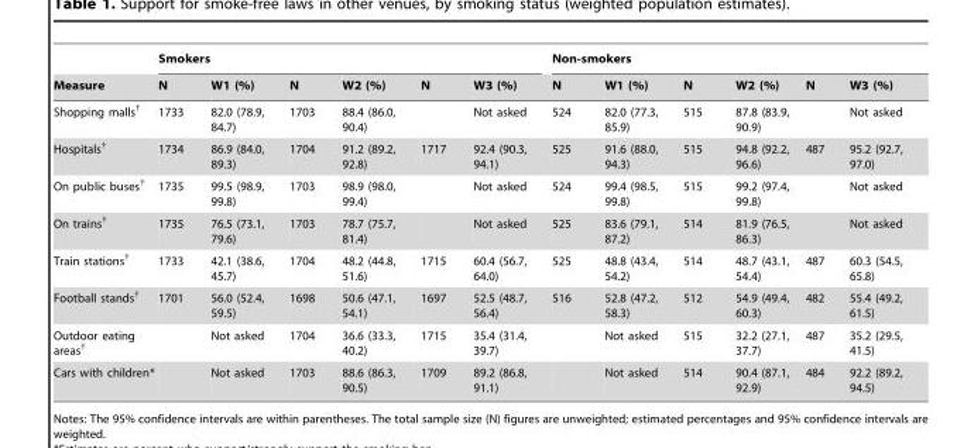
<table><thead><tr><td rowspan="2">Measure</td><td colspan="6">Smokers</td><td colspan="6">Non-smokers</td></tr><tr><td>N</td><td>W1 (%)</td><td>N</td><td>W2 (%)</td><td>N</td><td>W3 (%)</td><td>N</td><td>W1 (%)</td><td>N</td><td>W2 (%)</td><td>N</td><td>W3 (%)</td></tr></thead><tbody><tr><td>Shopping malls†</td><td>1733</td><td>82.0 (78.9, 84.7)</td><td>1703</td><td>88.4 (86.0, 90.4)</td><td></td><td>Not asked</td><td>524</td><td>82.0 (77.3, 85.9)</td><td>515</td><td>87.8 (83.9, 90.9)</td><td></td><td>Not asked</td></tr><tr><td>Hospitals†</td><td>1734</td><td>86.9 (84.0, 89.3)</td><td>1704</td><td>91.2 (89.2, 92.8)</td><td>1717</td><td>92.4 (90.3, 94.1)</td><td>525</td><td>91.6 (88.0, 94.3)</td><td>515</td><td>94.8 (92.2, 96.6)</td><td>487</td><td>95.2 (92.7, 97.0)</td></tr><tr><td>On public buses†</td><td>1735</td><td>99.5 (98.9, 99.8)</td><td>1703</td><td>98.9 (98.0, 99.4)</td><td></td><td>Not asked</td><td>524</td><td>99.4 (98.5, 99.8)</td><td>515</td><td>99.2 (97.4, 99.8)</td><td></td><td>Not asked</td></tr><tr><td>On trains†</td><td>1735</td><td>76.5 (73.1, 79.6)</td><td>1703</td><td>78.7 (75.7, 81.4)</td><td></td><td>Not asked</td><td>525</td><td>83.6 (79.1, 87.2)</td><td>514</td><td>81.9 (76.5, 86.3)</td><td></td><td>Not asked</td></tr><tr><td>Train stations†</td><td>1733</td><td>42.1 (38.6, 45.7)</td><td>1704</td><td>48.2 (44.8, 51.6)</td><td>1715</td><td>60.4 (56.7, 64.0)</td><td>525</td><td>48.8 (43.4, 54.2)</td><td>514</td><td>48.7 (43.1, 54.4)</td><td>487</td><td>60.3 (54.5, 65.8)</td></tr><tr><td>Football stands†</td><td>1701</td><td>56.0 (52.4, 59.5)</td><td>1698</td><td>50.6 (47.1, 54.1)</td><td>1697</td><td>52.5 (48.7, 56.4)</td><td>516</td><td>52.8 (47.2, 58.3)</td><td>512</td><td>54.9 (49.4, 60.3)</td><td>482</td><td>55.4 (49.2, 61.5)</td></tr><tr><td>Outdoor eating areas†</td><td></td><td>Not asked</td><td>1704</td><td>36.6 (33.3, 40.2)</td><td>1715</td><td>35.4 (31.4, 39.7)</td><td></td><td>Not asked</td><td>515</td><td>32.2 (27.1, 37.7)</td><td>487</td><td>35.2 (29.5, 41.5)</td></tr><tr><td>Cars with children*</td><td></td><td>Not asked</td><td>1703</td><td>88.6 (86.3, 90.5)</td><td>1709</td><td>89.2 (86.8, 91.1)</td><td></td><td>Not asked</td><td>514</td><td>90.4 (87.1, 92.9)</td><td>484</td><td>92.2 (89.2, 94.5)</td></tr></tbody></table>